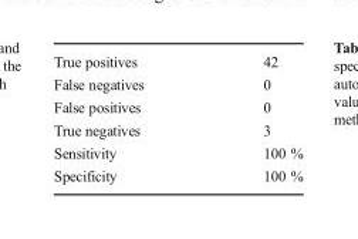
<table><tbody><tr><td>True positives</td><td>42</td></tr><tr><td>False negatives</td><td>0</td></tr><tr><td>False positives</td><td>0</td></tr><tr><td>True negatives</td><td>3</td></tr><tr><td>Sensitivity</td><td>100 %</td></tr><tr><td>Specificity</td><td>100 %</td></tr></tbody></table>